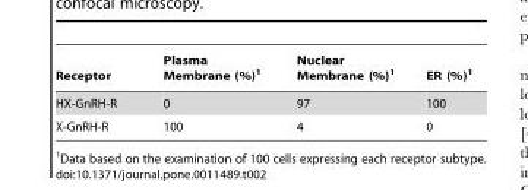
<table><thead><tr><td>Receptor</td><td>Plasma Membrane (%)<sup>1</sup></td><td>Nuclear Membrane (%)<sup>1</sup></td><td>ER (%)<sup>1</sup></td></tr></thead><tbody><tr><td>HX-GnRH-R</td><td>0</td><td>97</td><td>100</td></tr><tr><td>X-GnRH-R</td><td>100</td><td>4</td><td>0</td></tr></tbody></table>